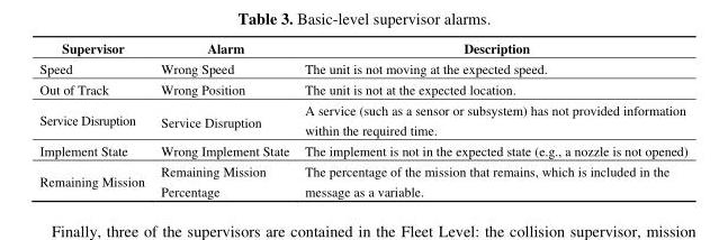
<table><thead><tr><td>Supervisor</td><td>Alarm</td><td>Description</td></tr></thead><tbody><tr><td>Speed</td><td>Wrong Speed</td><td>The unit is not moving at the expected speed.</td></tr><tr><td>Out of Track</td><td>Wrong Position</td><td>The unit is not at the expected location.</td></tr><tr><td>Service Disruption</td><td>Service Disruption</td><td>A service (such as a sensor or subsystem) has not provided information within the required time.</td></tr><tr><td>Implement State</td><td>Wrong Implement State</td><td>The implement is not in the expected state (e.g., a nozzle is not opened)</td></tr><tr><td>Remaining Mission</td><td>Remaining Mission Percentage</td><td>The percentage of the mission that remains, which is included in the message as a variable.</td></tr></tbody></table>